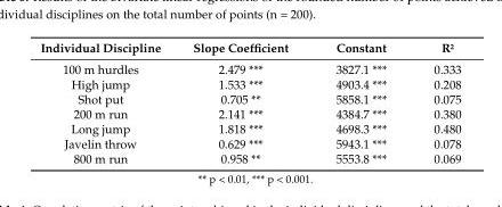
<table><thead><tr><td>Individual Discipline</td><td>Slope Coefficient</td><td>Constant</td><td>R²</td></tr></thead><tbody><tr><td>100 m hurdles</td><td>2.479 ***</td><td>3827.1 ***</td><td>0.333</td></tr><tr><td>High jump</td><td>1.533 ***</td><td>4903.4 ***</td><td>0.208</td></tr><tr><td>Shot put</td><td>0.705 **</td><td>5858.1 ***</td><td>0.075</td></tr><tr><td>200 m run</td><td>2.141 ***</td><td>4384.7 ***</td><td>0.380</td></tr><tr><td>Long jump</td><td>1.818 ***</td><td>4698.3 ***</td><td>0.480</td></tr><tr><td>Javelin throw</td><td>0.629 ***</td><td>5943.1 ***</td><td>0.078</td></tr><tr><td>800 m run</td><td>0.958 **</td><td>5553.8 ***</td><td>0.069</td></tr></tbody></table>